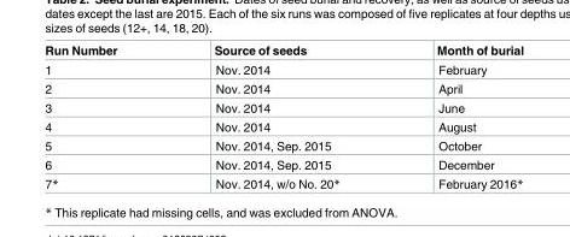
<table><thead><tr><td>Run Number</td><td>Source of seeds</td><td>Month of burial</td></tr></thead><tbody><tr><td>1</td><td>Nov. 2014</td><td>February</td></tr><tr><td>2</td><td>Nov. 2014</td><td>April</td></tr><tr><td>3</td><td>Nov. 2014</td><td>June</td></tr><tr><td>4</td><td>Nov. 2014</td><td>August</td></tr><tr><td>5</td><td>Nov. 2014, Sep. 2015</td><td>October</td></tr><tr><td>6</td><td>Nov. 2014, Sep. 2015</td><td>December</td></tr><tr><td>7*</td><td>Nov. 2014, w/o No. 20*</td><td>February 2016*</td></tr></tbody></table>